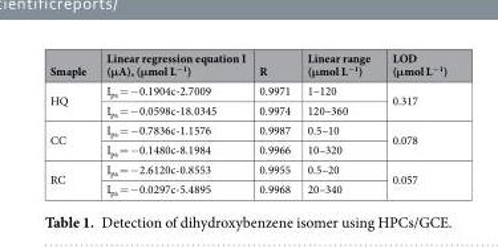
<table><thead><tr><td>Smaple</td><td>Linear regression equation I (μA), (μmol L<sup>−1</sup>)</td><td>R</td><td>Linear range (μmol L<sup>−1</sup>)</td><td>LOD (μmol L<sup>−1</sup>)</td></tr></thead><tbody><tr><td rowspan="2">HQ</td><td>I<sub>pa</sub> = −0.1904c-2.7009</td><td>0.9971</td><td>1–120</td><td rowspan="2">0.317</td></tr><tr><td>I<sub>pa</sub> = −0.0598c-18.0345</td><td>0.9974</td><td>120–360</td></tr><tr><td rowspan="2">CC</td><td>I<sub>pa</sub> = −0.7836c-1.1576</td><td>0.9987</td><td>0.5–10</td><td rowspan="2">0.078</td></tr><tr><td>I<sub>pa</sub> = −0.1480c-8.1984</td><td>0.9966</td><td>10–320</td></tr><tr><td rowspan="2">RC</td><td>I<sub>pa</sub> = −2.6120c-0.8553</td><td>0.9955</td><td>0.5–20</td><td rowspan="2">0.057</td></tr><tr><td>I<sub>pa</sub> = −0.0297c-5.4895</td><td>0.9968</td><td>20–340</td></tr></tbody></table>